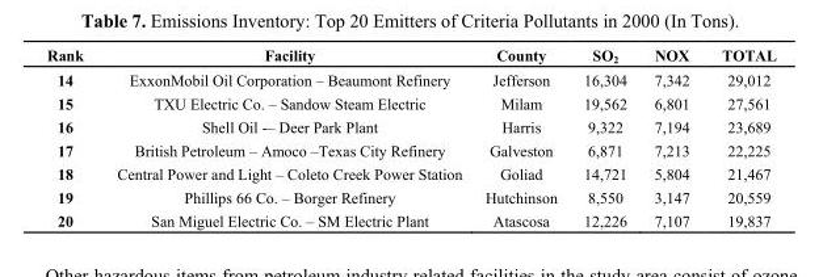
<table><thead><tr><td>Rank</td><td>Facility</td><td>County</td><td>SO<sub>2</sub></td><td>NOX</td><td>TOTAL</td></tr></thead><tbody><tr><td>14</td><td>ExxonMobil Oil Corporation – Beaumont Refinery</td><td>Jefferson</td><td>16,304</td><td>7,342</td><td>29,012</td></tr><tr><td>15</td><td>TXU Electric Co. – Sandow Steam Electric</td><td>Milam</td><td>19,562</td><td>6,801</td><td>27,561</td></tr><tr><td>16</td><td>Shell Oil -– Deer Park Plant</td><td>Harris</td><td>9,322</td><td>7,194</td><td>23,689</td></tr><tr><td>17</td><td>British Petroleum – Amoco –Texas City Refinery</td><td>Galveston</td><td>6,871</td><td>7,213</td><td>22,225</td></tr><tr><td>18</td><td>Central Power and Light – Coleto Creek Power Station</td><td>Goliad</td><td>14,721</td><td>5,804</td><td>21,467</td></tr><tr><td>19</td><td>Phillips 66 Co. – Borger Refinery</td><td>Hutchinson</td><td>8,550</td><td>3,147</td><td>20,559</td></tr><tr><td>20</td><td>San Miguel Electric Co. – SM Electric Plant</td><td>Atascosa</td><td>12,226</td><td>7,107</td><td>19,837</td></tr></tbody></table>